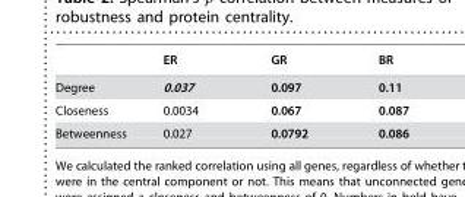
<table><thead><tr><td></td><td>ER</td><td>GR</td><td>BR</td></tr></thead><tbody><tr><td>Degree</td><td>0.037</td><td>0.097</td><td>0.11</td></tr><tr><td>Closeness</td><td>0.0034</td><td>0.067</td><td>0.087</td></tr><tr><td>Betweenness</td><td>0.027</td><td>0.0792</td><td>0.086</td></tr></tbody></table>